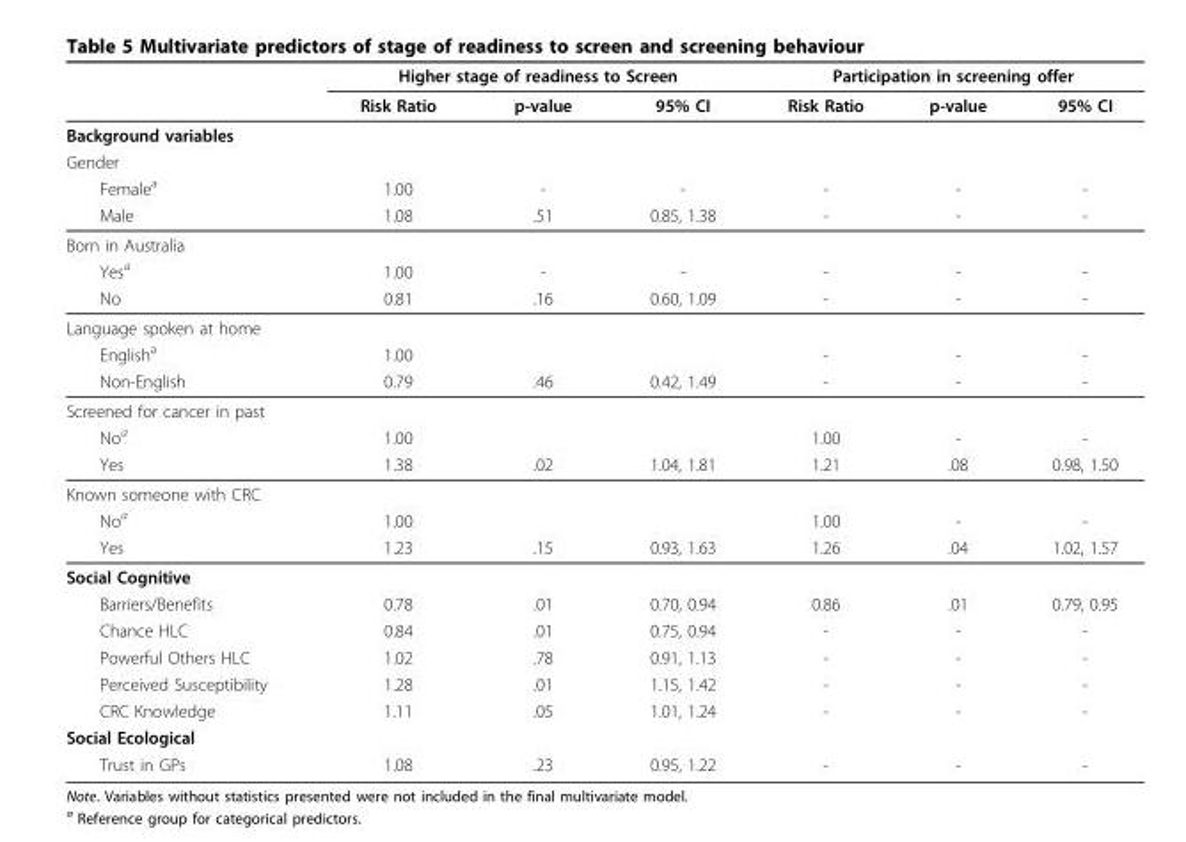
<table><thead><tr><td rowspan="2"></td><td colspan="3">Higher stage of readiness to Screen</td><td colspan="3">Participation in screening offer</td></tr><tr><td>Risk Ratio</td><td>p-value</td><td>95% CI</td><td>Risk Ratio</td><td>p-value</td><td>95% CI</td></tr></thead><tbody><tr><td colspan="7">Background variables</td></tr><tr><td colspan="7">Gender</td></tr><tr><td>Female<sup>a</sup></td><td>1.00</td><td>-</td><td>-</td><td>-</td><td>-</td><td>-</td></tr><tr><td>Male</td><td>1.08</td><td>.51</td><td>0.85, 1.38</td><td>-</td><td>-</td><td>-</td></tr><tr><td colspan="7">Born in Australia</td></tr><tr><td>Yes<sup>a</sup></td><td>1.00</td><td>-</td><td>-</td><td>-</td><td>-</td><td>-</td></tr><tr><td>No</td><td>0.81</td><td>.16</td><td>0.60, 1.09</td><td>-</td><td>-</td><td>-</td></tr><tr><td colspan="7">Language spoken at home</td></tr><tr><td>English<sup>a</sup></td><td>1.00</td><td></td><td></td><td>-</td><td>-</td><td>-</td></tr><tr><td>Non-English</td><td>0.79</td><td>.46</td><td>0.42, 1.49</td><td>-</td><td>-</td><td>-</td></tr><tr><td colspan="7">Screened for cancer in past</td></tr><tr><td>No<sup>a</sup></td><td>1.00</td><td></td><td></td><td>1.00</td><td>-</td><td>-</td></tr><tr><td>Yes</td><td>1.38</td><td>.02</td><td>1.04, 1.81</td><td>1.21</td><td>.08</td><td>0.98, 1.50</td></tr><tr><td colspan="7">Known someone with CRC</td></tr><tr><td>No<sup>a</sup></td><td>1.00</td><td></td><td></td><td>1.00</td><td>-</td><td>-</td></tr><tr><td>Yes</td><td>1.23</td><td>.15</td><td>0.93, 1.63</td><td>1.26</td><td>.04</td><td>1.02, 1.57</td></tr><tr><td colspan="7">Social Cognitive</td></tr><tr><td>Barriers/Benefits</td><td>0.78</td><td>.01</td><td>0.70, 0.94</td><td>0.86</td><td>.01</td><td>0.79, 0.95</td></tr><tr><td>Chance HLC</td><td>0.84</td><td>.01</td><td>0.75, 0.94</td><td>-</td><td>-</td><td>-</td></tr><tr><td>Powerful Others HLC</td><td>1.02</td><td>.78</td><td>0.91, 1.13</td><td>-</td><td>-</td><td>-</td></tr><tr><td>Perceived Susceptibility</td><td>1.28</td><td>.01</td><td>1.15, 1.42</td><td>-</td><td>-</td><td>-</td></tr><tr><td>CRC Knowledge</td><td>1.11</td><td>.05</td><td>1.01, 1.24</td><td>-</td><td>-</td><td>-</td></tr><tr><td colspan="7">Social Ecological</td></tr><tr><td>Trust in GPs</td><td>1.08</td><td>.23</td><td>0.95, 1.22</td><td>-</td><td>-</td><td>-</td></tr></tbody></table>